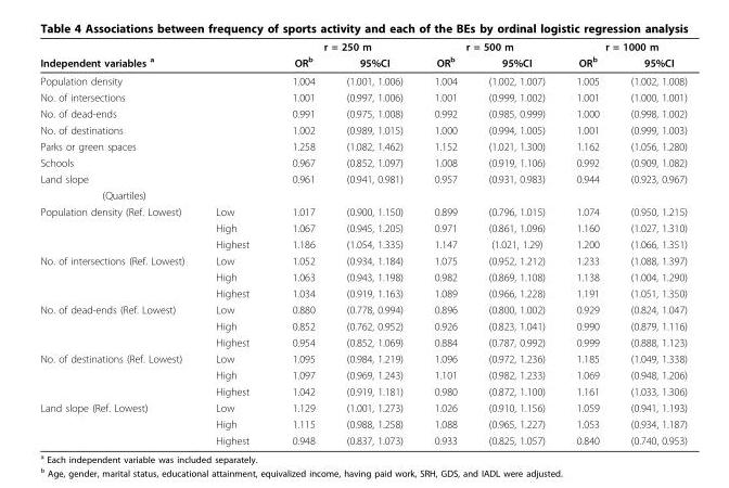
<table><thead><tr><td rowspan="2">Independent variables <sup>a</sup></td><td rowspan="2"></td><td colspan="2">r = 250 m</td><td colspan="2">r = 500 m</td><td colspan="2">r = 1000 m</td></tr><tr><td>OR<sup>b</sup></td><td>95%CI</td><td>OR<sup>b</sup></td><td>95%CI</td><td>OR<sup>b</sup></td><td>95%CI</td></tr></thead><tbody><tr><td>Population density</td><td></td><td>1.004</td><td>(1.001, 1.006)</td><td>1.004</td><td>(1.002, 1.007)</td><td>1.005</td><td>(1.002, 1.008)</td></tr><tr><td>No. of intersections</td><td></td><td>1.001</td><td>(0.997, 1.006)</td><td>1.001</td><td>(0.999, 1.002)</td><td>1.001</td><td>(1.000, 1.001)</td></tr><tr><td>No. of dead-ends</td><td></td><td>0.991</td><td>(0.975, 1.008)</td><td>0.992</td><td>(0.985, 0.999)</td><td>1.000</td><td>(0.998, 1.002)</td></tr><tr><td>No. of destinations</td><td></td><td>1.002</td><td>(0.989, 1.015)</td><td>1.000</td><td>(0.994, 1.005)</td><td>1.001</td><td>(0.999, 1.003)</td></tr><tr><td>Parks or green spaces</td><td></td><td>1.258</td><td>(1.082, 1.462)</td><td>1.152</td><td>(1.021, 1.300)</td><td>1.162</td><td>(1.056, 1.280)</td></tr><tr><td>Schools</td><td></td><td>0.967</td><td>(0.852, 1.097)</td><td>1.008</td><td>(0.919, 1.106)</td><td>0.992</td><td>(0.909, 1.082)</td></tr><tr><td>Land slope</td><td></td><td>0.961</td><td>(0.941, 0.981)</td><td>0.957</td><td>(0.931, 0.983)</td><td>0.944</td><td>(0.923, 0.967)</td></tr><tr><td colspan="8">(Quartiles)</td></tr><tr><td rowspan="3">Population density (Ref. Lowest)</td><td>Low</td><td>1.017</td><td>(0.900, 1.150)</td><td>0.899</td><td>(0.796, 1.015)</td><td>1.074</td><td>(0.950, 1.215)</td></tr><tr><td>High</td><td>1.067</td><td>(0.945, 1.205)</td><td>0.971</td><td>(0.861, 1.096)</td><td>1.160</td><td>(1.027, 1.310)</td></tr><tr><td>Highest</td><td>1.186</td><td>(1.054, 1.335)</td><td>1.147</td><td>(1.021, 1.29)</td><td>1.200</td><td>(1.066, 1.351)</td></tr><tr><td rowspan="3">No. of intersections (Ref. Lowest)</td><td>Low</td><td>1.052</td><td>(0.934, 1.184)</td><td>1.075</td><td>(0.952, 1.212)</td><td>1.233</td><td>(1.088, 1.397)</td></tr><tr><td>High</td><td>1.063</td><td>(0.943, 1.198)</td><td>0.982</td><td>(0.869, 1.108)</td><td>1.138</td><td>(1.004, 1.290)</td></tr><tr><td>Highest</td><td>1.034</td><td>(0.919, 1.163)</td><td>1.089</td><td>(0.966, 1.228)</td><td>1.191</td><td>(1.051, 1.350)</td></tr><tr><td rowspan="3">No. of dead-ends (Ref. Lowest)</td><td>Low</td><td>0.880</td><td>(0.778, 0.994)</td><td>0.896</td><td>(0.800, 1.002)</td><td>0.929</td><td>(0.824, 1.047)</td></tr><tr><td>High</td><td>0.852</td><td>(0.762, 0.952)</td><td>0.926</td><td>(0.823, 1.041)</td><td>0.990</td><td>(0.879, 1.116)</td></tr><tr><td>Highest</td><td>0.954</td><td>(0.852, 1.069)</td><td>0.884</td><td>(0.787, 0.992)</td><td>0.999</td><td>(0.888, 1.123)</td></tr><tr><td rowspan="3">No. of destinations (Ref. Lowest)</td><td>Low</td><td>1.095</td><td>(0.984, 1.219)</td><td>1.096</td><td>(0.972, 1.236)</td><td>1.185</td><td>(1.049, 1.338)</td></tr><tr><td>High</td><td>1.097</td><td>(0.969, 1.243)</td><td>1.101</td><td>(0.982, 1.233)</td><td>1.069</td><td>(0.948, 1.206)</td></tr><tr><td>Highest</td><td>1.042</td><td>(0.919, 1.181)</td><td>0.980</td><td>(0.872, 1.100)</td><td>1.161</td><td>(1.033, 1.306)</td></tr><tr><td rowspan="3">Land slope (Ref. Lowest)</td><td>Low</td><td>1.129</td><td>(1.001, 1.273)</td><td>1.026</td><td>(0.910, 1.156)</td><td>1.059</td><td>(0.941, 1.193)</td></tr><tr><td>High</td><td>1.115</td><td>(0.988, 1.258)</td><td>1.088</td><td>(0.965, 1.227)</td><td>1.053</td><td>(0.934, 1.187)</td></tr><tr><td>Highest</td><td>0.948</td><td>(0.837, 1.073)</td><td>0.933</td><td>(0.825, 1.057)</td><td>0.840</td><td>(0.740, 0.953)</td></tr></tbody></table>